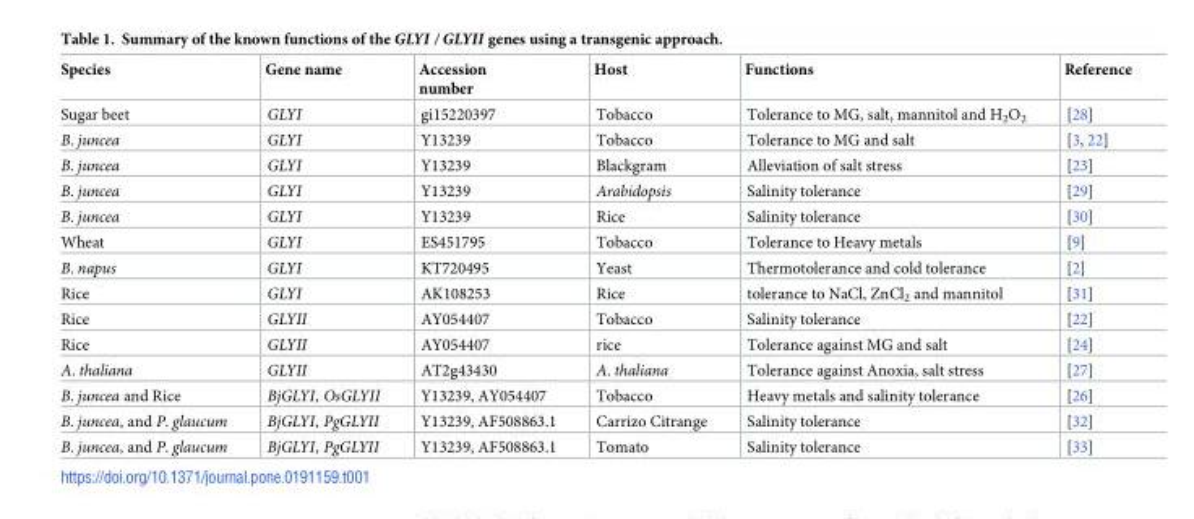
<table><thead><tr><td>Species</td><td>Gene name</td><td>Accession number</td><td>Host</td><td>Functions</td><td>Reference</td></tr></thead><tbody><tr><td>Sugar beet</td><td>GLYI</td><td>gi15220397</td><td>Tobacco</td><td>Tolerance to MG, salt, mannitol and H<sub>2</sub>O<sub>2</sub></td><td>[28]</td></tr><tr><td>B. juncea</td><td>GLYI</td><td>Y13239</td><td>Tobacco</td><td>Tolerance to MG and salt</td><td>[3, 22]</td></tr><tr><td>B. juncea</td><td>GLYI</td><td>Y13239</td><td>Blackgram</td><td>Alleviation of salt stress</td><td>[23]</td></tr><tr><td>B. juncea</td><td>GLYI</td><td>Y13239</td><td>Arabidopsis</td><td>Salinity tolerance</td><td>[29]</td></tr><tr><td>B. juncea</td><td>GLYI</td><td>Y13239</td><td>Rice</td><td>Salinity tolerance</td><td>[30]</td></tr><tr><td>Wheat</td><td>GLYI</td><td>ES451795</td><td>Tobacco</td><td>Tolerance to Heavy metals</td><td>[9]</td></tr><tr><td>B. napus</td><td>GLYI</td><td>KT720495</td><td>Yeast</td><td>Thermotolerance and cold tolerance</td><td>[2]</td></tr><tr><td>Rice</td><td>GLYI</td><td>AK108253</td><td>Rice</td><td>tolerance to NaCl, ZnCl<sub>2</sub> and mannitol</td><td>[31]</td></tr><tr><td>Rice</td><td>GLYII</td><td>AY054407</td><td>Tobacco</td><td>Salinity tolerance</td><td>[22]</td></tr><tr><td>Rice</td><td>GLYII</td><td>AY054407</td><td>rice</td><td>Tolerance against MG and salt</td><td>[24]</td></tr><tr><td>A. thaliana</td><td>GLYII</td><td>AT2g43430</td><td>A. thaliana</td><td>Tolerance against Anoxia, salt stress</td><td>[27]</td></tr><tr><td>B. juncea and Rice</td><td>BjGLYI, OsGLYII</td><td>Y13239, AY054407</td><td>Tobacco</td><td>Heavy metals and salinity tolerance</td><td>[26]</td></tr><tr><td>B. juncea, and P. glaucum</td><td>BjGLYI, PgGLYII</td><td>Y13239, AF508863.1</td><td>Carrizo Citrange</td><td>Salinity tolerance</td><td>[32]</td></tr><tr><td>B. juncea, and P. glaucum</td><td>BjGLYI, PgGLYII</td><td>Y13239, AF508863.1</td><td>Tomato</td><td>Salinity tolerance</td><td>[33]</td></tr></tbody></table>